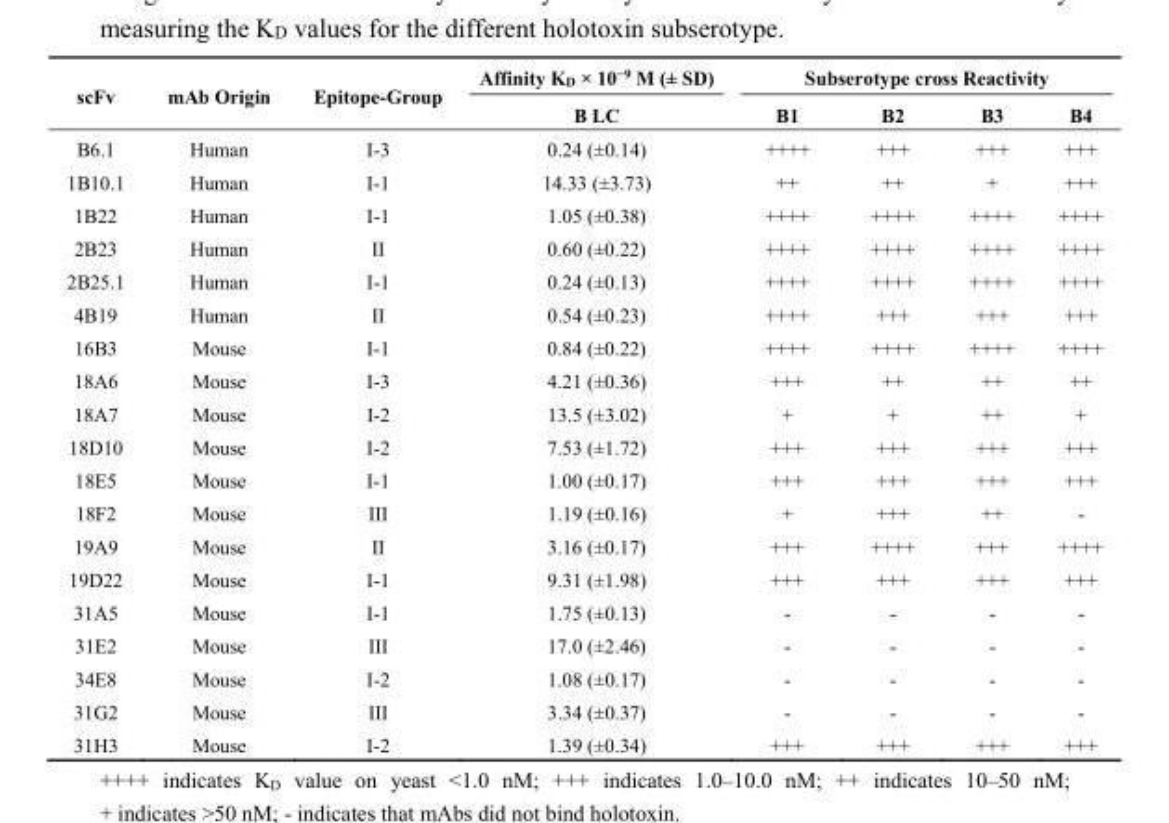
<table><thead><tr><td rowspan="2">scFv</td><td rowspan="2">mAb Origin</td><td rowspan="2">Epitope-Group</td><td rowspan="2">Affinity K<sub>D</sub> × 10<sup>−9</sup> M (± SD) B LC</td><td colspan="4">Subserotype cross Reactivity</td></tr><tr><td>B1</td><td>B2</td><td>B3</td><td>B4</td></tr></thead><tbody><tr><td>B6.1</td><td>Human</td><td>I-3</td><td>0.24 (±0.14)</td><td>++++</td><td>+++</td><td>+++</td><td>+++</td></tr><tr><td>1B10.1</td><td>Human</td><td>I-1</td><td>14.33 (±3.73)</td><td>++</td><td>++</td><td>+</td><td>+++</td></tr><tr><td>1B22</td><td>Human</td><td>I-1</td><td>1.05 (±0.38)</td><td>++++</td><td>++++</td><td>++++</td><td>++++</td></tr><tr><td>2B23</td><td>Human</td><td>II</td><td>0.60 (±0.22)</td><td>++++</td><td>++++</td><td>++++</td><td>++++</td></tr><tr><td>2B25.1</td><td>Human</td><td>I-1</td><td>0.24 (±0.13)</td><td>++++</td><td>++++</td><td>++++</td><td>++++</td></tr><tr><td>4B19</td><td>Human</td><td>II</td><td>0.54 (±0.23)</td><td>++++</td><td>+++</td><td>+++</td><td>+++</td></tr><tr><td>16B3</td><td>Mouse</td><td>I-1</td><td>0.84 (±0.22)</td><td>++++</td><td>++++</td><td>++++</td><td>++++</td></tr><tr><td>18A6</td><td>Mouse</td><td>I-3</td><td>4.21 (±0.36)</td><td>+++</td><td>++</td><td>++</td><td>++</td></tr><tr><td>18A7</td><td>Mouse</td><td>I-2</td><td>13.5 (±3.02)</td><td>+</td><td>+</td><td>++</td><td>+</td></tr><tr><td>18D10</td><td>Mouse</td><td>I-2</td><td>7.53 (±1.72)</td><td>+++</td><td>+++</td><td>+++</td><td>+++</td></tr><tr><td>18E5</td><td>Mouse</td><td>I-1</td><td>1.00 (±0.17)</td><td>+++</td><td>+++</td><td>+++</td><td>+++</td></tr><tr><td>18F2</td><td>Mouse</td><td>III</td><td>1.19 (±0.16)</td><td>+</td><td>+++</td><td>++</td><td>-</td></tr><tr><td>19A9</td><td>Mouse</td><td>II</td><td>3.16 (±0.17)</td><td>+++</td><td>++++</td><td>+++</td><td>++++</td></tr><tr><td>19D22</td><td>Mouse</td><td>I-1</td><td>9.31 (±1.98)</td><td>+++</td><td>+++</td><td>+++</td><td>+++</td></tr><tr><td>31A5</td><td>Mouse</td><td>I-1</td><td>1.75 (±0.13)</td><td>-</td><td>-</td><td>-</td><td>-</td></tr><tr><td>31E2</td><td>Mouse</td><td>III</td><td>17.0 (±2.46)</td><td>-</td><td>-</td><td>-</td><td>-</td></tr><tr><td>34E8</td><td>Mouse</td><td>I-2</td><td>1.08 (±0.17)</td><td>-</td><td>-</td><td>-</td><td>-</td></tr><tr><td>31G2</td><td>Mouse</td><td>III</td><td>3.34 (±0.37)</td><td>-</td><td>-</td><td>-</td><td>-</td></tr><tr><td>31H3</td><td>Mouse</td><td>I-2</td><td>1.39 (±0.34)</td><td>+++</td><td>+++</td><td>+++</td><td>+++</td></tr></tbody></table>